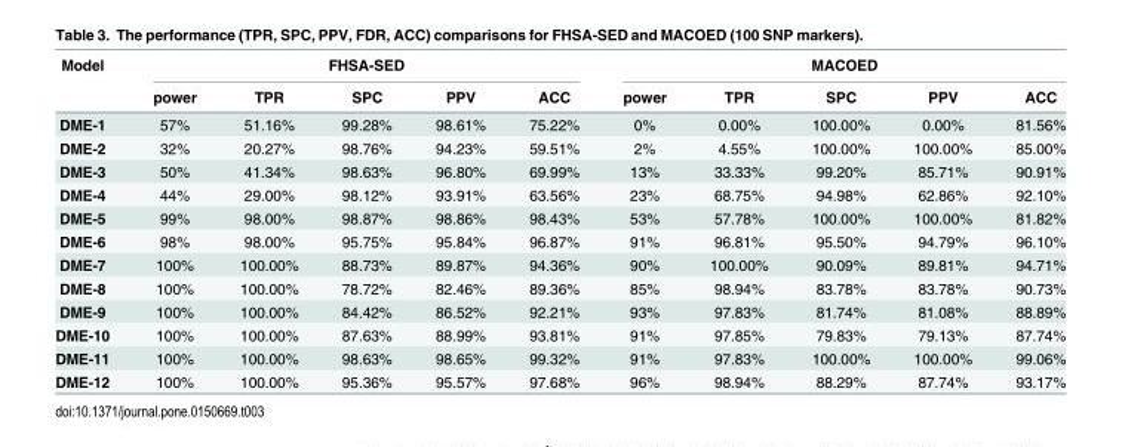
<table><thead><tr><td rowspan="2">Model</td><td colspan="5">FHSA-SED</td><td colspan="5">MACOED</td></tr><tr><td>power</td><td>TPR</td><td>SPC</td><td>PPV</td><td>ACC</td><td>power</td><td>TPR</td><td>SPC</td><td>PPV</td><td>ACC</td></tr></thead><tbody><tr><td>DME-1</td><td>57%</td><td>51.16%</td><td>99.28%</td><td>98.61%</td><td>75.22%</td><td>0%</td><td>0.00%</td><td>100.00%</td><td>0.00%</td><td>81.56%</td></tr><tr><td>DME-2</td><td>32%</td><td>20.27%</td><td>98.76%</td><td>94.23%</td><td>59.51%</td><td>2%</td><td>4.55%</td><td>100.00%</td><td>100.00%</td><td>85.00%</td></tr><tr><td>DME-3</td><td>50%</td><td>41.34%</td><td>98.63%</td><td>96.80%</td><td>69.99%</td><td>13%</td><td>33.33%</td><td>99.20%</td><td>85.71%</td><td>90.91%</td></tr><tr><td>DME-4</td><td>44%</td><td>29.00%</td><td>98.12%</td><td>93.91%</td><td>63.56%</td><td>23%</td><td>68.75%</td><td>94.98%</td><td>62.86%</td><td>92.10%</td></tr><tr><td>DME-5</td><td>99%</td><td>98.00%</td><td>98.87%</td><td>98.86%</td><td>98.43%</td><td>53%</td><td>57.78%</td><td>100.00%</td><td>100.00%</td><td>81.82%</td></tr><tr><td>DME-6</td><td>98%</td><td>98.00%</td><td>95.75%</td><td>95.84%</td><td>96.87%</td><td>91%</td><td>96.81%</td><td>95.50%</td><td>94.79%</td><td>96.10%</td></tr><tr><td>DME-7</td><td>100%</td><td>100.00%</td><td>88.73%</td><td>89.87%</td><td>94.36%</td><td>90%</td><td>100.00%</td><td>90.09%</td><td>89.81%</td><td>94.71%</td></tr><tr><td>DME-8</td><td>100%</td><td>100.00%</td><td>78.72%</td><td>82.46%</td><td>89.36%</td><td>85%</td><td>98.94%</td><td>83.78%</td><td>83.78%</td><td>90.73%</td></tr><tr><td>DME-9</td><td>100%</td><td>100.00%</td><td>84.42%</td><td>86.52%</td><td>92.21%</td><td>93%</td><td>97.83%</td><td>81.74%</td><td>81.08%</td><td>88.89%</td></tr><tr><td>DME-10</td><td>100%</td><td>100.00%</td><td>87.63%</td><td>88.99%</td><td>93.81%</td><td>91%</td><td>97.85%</td><td>79.83%</td><td>79.13%</td><td>87.74%</td></tr><tr><td>DME-11</td><td>100%</td><td>100.00%</td><td>98.63%</td><td>98.65%</td><td>99.32%</td><td>91%</td><td>97.83%</td><td>100.00%</td><td>100.00%</td><td>99.06%</td></tr><tr><td>DME-12</td><td>100%</td><td>100.00%</td><td>95.36%</td><td>95.57%</td><td>97.68%</td><td>96%</td><td>98.94%</td><td>88.29%</td><td>87.74%</td><td>93.17%</td></tr></tbody></table>